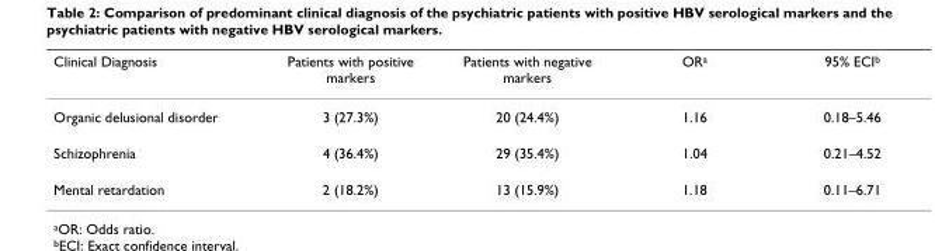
<table><thead><tr><td>Clinical Diagnosis</td><td>Patients with positive markers</td><td>Patients with negative markers</td><td>OR<sup>a</sup></td><td>95% ECI<sup>b</sup></td></tr></thead><tbody><tr><td>Organic delusional disorder</td><td>3 (27.3%)</td><td>20 (24.4%)</td><td>1.16</td><td>0.18–5.46</td></tr><tr><td>Schizophrenia</td><td>4 (36.4%)</td><td>29 (35.4%)</td><td>1.04</td><td>0.21–4.52</td></tr><tr><td>Mental retardation</td><td>2 (18.2%)</td><td>13 (15.9%)</td><td>1.18</td><td>0.11–6.71</td></tr></tbody></table>